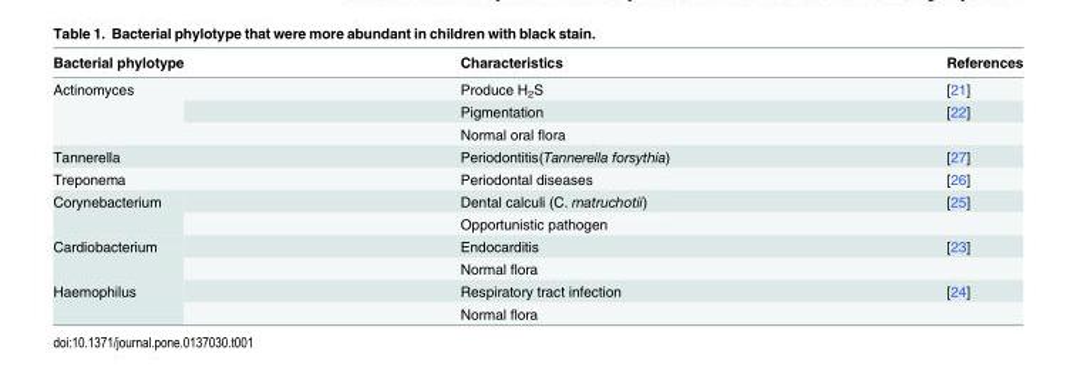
<table><thead><tr><td>Bacterial phylotype</td><td>Characteristics</td><td>References</td></tr></thead><tbody><tr><td rowspan="3">Actinomyces</td><td>Produce H<sub>2</sub>S</td><td>[21]</td></tr><tr><td>Pigmentation</td><td>[22]</td></tr><tr><td>Normal oral flora</td><td></td></tr><tr><td>Tannerella</td><td>Periodontitis(Tannerella forsythia)</td><td>[27]</td></tr><tr><td>Treponema</td><td>Periodontal diseases</td><td>[26]</td></tr><tr><td rowspan="2">Corynebacterium</td><td>Dental calculi (C. matruchotii)</td><td>[25]</td></tr><tr><td>Opportunistic pathogen</td><td></td></tr><tr><td rowspan="2">Cardiobacterium</td><td>Endocarditis</td><td>[23]</td></tr><tr><td>Normal flora</td><td></td></tr><tr><td rowspan="2">Haemophilus</td><td>Respiratory tract infection</td><td>[24]</td></tr><tr><td>Normal flora</td><td></td></tr></tbody></table>